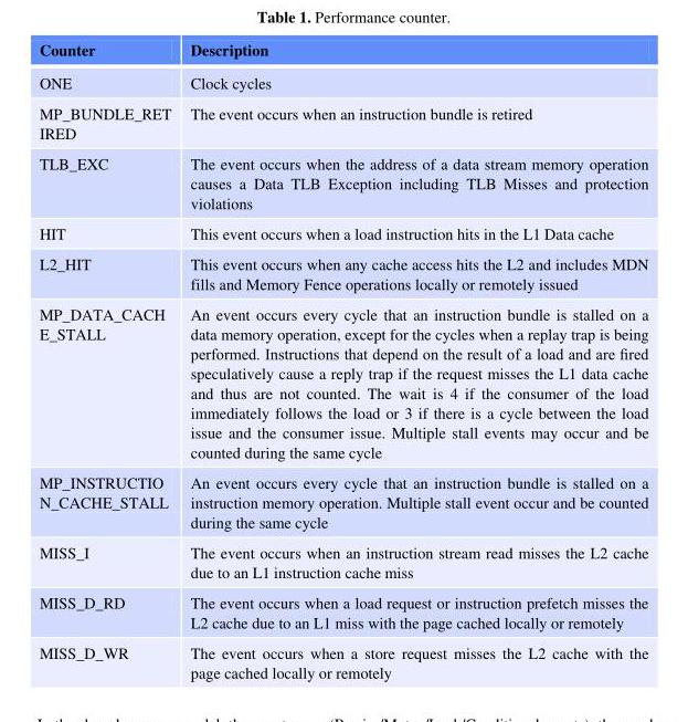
<table><thead><tr><td>Counter</td><td>Description</td></tr></thead><tbody><tr><td>ONE</td><td>Clock cycles</td></tr><tr><td>MP_BUNDLE_RET IRED</td><td>The event occurs when an instruction bundle is retired</td></tr><tr><td>TLB_EXC</td><td>The event occurs when the address of a data stream memory operation causes a Data TLB Exception including TLB Misses and protection violations</td></tr><tr><td>HIT</td><td>This event occurs when a load instruction hits in the L1 Data cache</td></tr><tr><td>L2_HIT</td><td>This event occurs when any cache access hits the L2 and includes MDN fills and Memory Fence operations locally or remotely issued</td></tr><tr><td>MP_DATA_CACH E_STALL</td><td>An event occurs every cycle that an instruction bundle is stalled on a data memory operation, except for the cycles when a replay trap is being performed. Instructions that depend on the result of a load and are fired speculatively cause a reply trap if the request misses the L1 data cache and thus are not counted. The wait is 4 if the consumer of the load immediately follows the load or 3 if there is a cycle between the load issue and the consumer issue. Multiple stall events may occur and be counted during the same cycle</td></tr><tr><td>MP_INSTRUCTIO N_CACHE_STALL</td><td>An event occurs every cycle that an instruction bundle is stalled on a instruction memory operation. Multiple stall event occur and be counted during the same cycle</td></tr><tr><td>MISS_I</td><td>The event occurs when an instruction stream read misses the L2 cache due to an L1 instruction cache miss</td></tr><tr><td>MISS_D_RD</td><td>The event occurs when a load request or instruction prefetch misses the L2 cache due to an L1 miss with the page cached locally or remotely</td></tr><tr><td>MISS_D_WR</td><td>The event occurs when a store request misses the L2 cache with the page cached locally or remotely</td></tr></tbody></table>